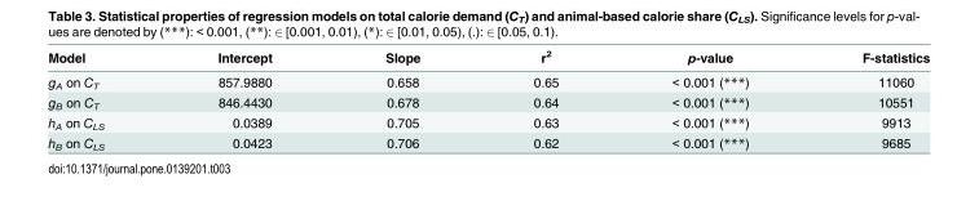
<table><thead><tr><td>Model</td><td>Intercept</td><td>Slope</td><td>r<sup>2</sup></td><td>p-value</td><td>F-statistics</td></tr></thead><tbody><tr><td>g<sub>A</sub> on C<sub>T</sub></td><td>857.9880</td><td>0.658</td><td>0.65</td><td>&lt; 0.001 (***)</td><td>11060</td></tr><tr><td>g<sub>B</sub> on C<sub>T</sub></td><td>846.4430</td><td>0.678</td><td>0.64</td><td>&lt; 0.001 (***)</td><td>10551</td></tr><tr><td>h<sub>A</sub> on C<sub>LS</sub></td><td>0.0389</td><td>0.705</td><td>0.63</td><td>&lt; 0.001 (***)</td><td>9913</td></tr><tr><td>h<sub>B</sub> on C<sub>LS</sub></td><td>0.0423</td><td>0.706</td><td>0.62</td><td>&lt; 0.001 (***)</td><td>9685</td></tr></tbody></table>